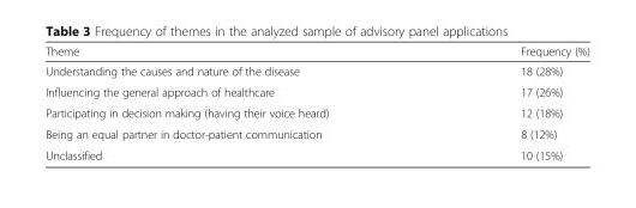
<table><thead><tr><td>Theme</td><td>Frequency (%)</td></tr></thead><tbody><tr><td>Understanding the causes and nature of the disease</td><td>18 (28%)</td></tr><tr><td>Influencing the general approach of healthcare</td><td>17 (26%)</td></tr><tr><td>Participating in decision making (having their voice heard)</td><td>12 (18%)</td></tr><tr><td>Being an equal partner in doctor-patient communication</td><td>8 (12%)</td></tr><tr><td>Unclassified</td><td>10 (15%)</td></tr></tbody></table>